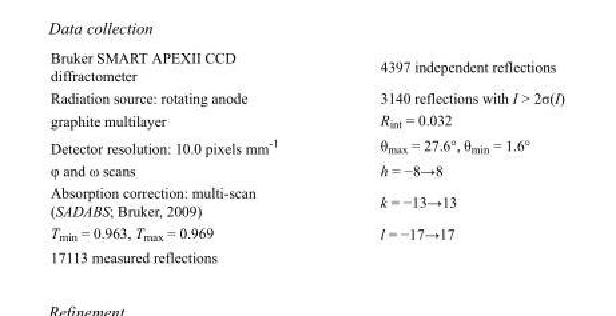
<table><tbody><tr><td>Bruker SMART APEXII CCD diffractometer</td><td>4397 independent reflections</td></tr><tr><td>Radiation source: rotating anode</td><td>3140 reflections with I &gt; 2σ(I)</td></tr><tr><td>graphite multilayer</td><td>R<sub>int</sub> = 0.032</td></tr><tr><td>Detector resolution: 10.0 pixels mm<sup>-1</sup></td><td>θ<sub>max</sub> = 27.6°, θ<sub>min</sub> = 1.6°</td></tr><tr><td>φ and ω scans</td><td>h = −8→8</td></tr><tr><td>Absorption correction: multi-scan (SADABS; Bruker, 2009)</td><td>k = −13→13</td></tr><tr><td>T<sub>min</sub> = 0.963, T<sub>max</sub> = 0.969</td><td>l = −17→17</td></tr><tr><td>17113 measured reflections</td><td></td></tr></tbody></table>